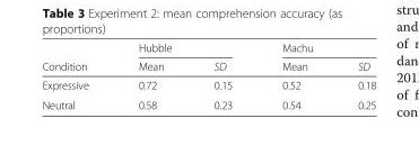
<table><thead><tr><td rowspan="2">Condition</td><td colspan="2">Hubble</td><td colspan="2">Machu</td></tr><tr><td>Mean</td><td>SD</td><td>Mean</td><td>SD</td></tr></thead><tbody><tr><td>Expressive</td><td>0.72</td><td>0.15</td><td>0.52</td><td>0.18</td></tr><tr><td>Neutral</td><td>0.58</td><td>0.23</td><td>0.54</td><td>0.25</td></tr></tbody></table>